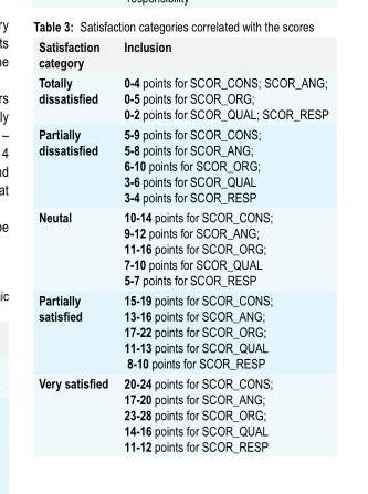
<table><thead><tr><td>Satisfaction category</td><td>Inclusion</td></tr></thead><tbody><tr><td rowspan="3">Totally dissatisfied</td><td>0-4 points for SCOR_CONS; SCOR_ANG;</td></tr><tr><td>0-5 points for SCOR_ORG;</td></tr><tr><td>0-2 points for SCOR_QUAL; SCOR_RESP</td></tr><tr><td rowspan="5">Partially dissatisfied</td><td>5-9 points for SCOR_CONS;</td></tr><tr><td>5-8 points for SCOR_ANG;</td></tr><tr><td>6-10 points for SCOR_ORG;</td></tr><tr><td>3-6 points for SCOR_QUAL</td></tr><tr><td>3-4 points for SCOR_RESP</td></tr><tr><td rowspan="5">Neutal</td><td>10-14 points for SCOR_CONS;</td></tr><tr><td>9-12 points for SCOR_ANG;</td></tr><tr><td>11-16 points for SCOR_ORG;</td></tr><tr><td>7-10 points for SCOR_QUAL</td></tr><tr><td>5-7 points for SCOR_RESP</td></tr><tr><td rowspan="5">Partially satisfied</td><td>15-19 points for SCOR_CONS;</td></tr><tr><td>13-16 points for SCOR_ANG;</td></tr><tr><td>17-22 points for SCOR_ORG;</td></tr><tr><td>11-13 points for SCOR_QUAL</td></tr><tr><td>8-10 points for SCOR_RESP</td></tr><tr><td rowspan="5">Very satisfied</td><td>20-24 points for SCOR_CONS;</td></tr><tr><td>17-20 points for SCOR_ANG;</td></tr><tr><td>23-28 points for SCOR_ORG;</td></tr><tr><td>14-16 points for SCOR_QUAL</td></tr><tr><td>11-12 points for SCOR_RESP</td></tr></tbody></table>